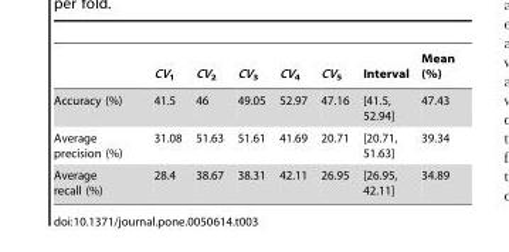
<table><thead><tr><td></td><td>CV<sub>1</sub></td><td>CV<sub>2</sub></td><td>CV<sub>3</sub></td><td>CV<sub>4</sub></td><td>CV<sub>5</sub></td><td>Interval</td><td>Mean (%)</td></tr></thead><tbody><tr><td>Accuracy (%)</td><td>41.5</td><td>46</td><td>49.05</td><td>52.97</td><td>47.16</td><td>[41.5, 52.94]</td><td>47.43</td></tr><tr><td>Average precision (%)</td><td>31.08</td><td>51.63</td><td>51.61</td><td>41.69</td><td>20.71</td><td>[20.71, 51.63]</td><td>39.34</td></tr><tr><td>Average recall (%)</td><td>28.4</td><td>38.67</td><td>38.31</td><td>42.11</td><td>26.95</td><td>[26.95, 42.11]</td><td>34.89</td></tr></tbody></table>